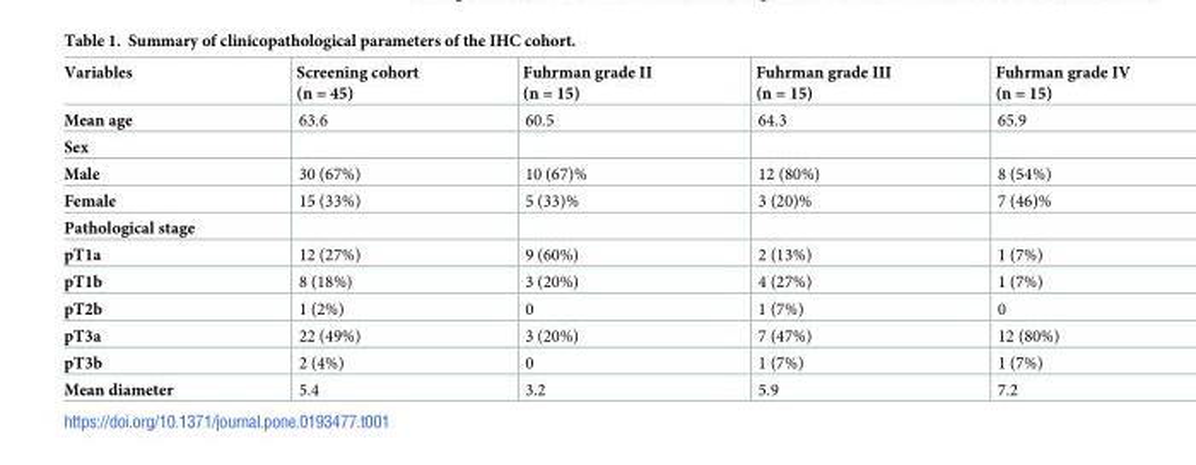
<table><thead><tr><td>Variables</td><td>Screening cohort (n = 45)</td><td>Fuhrman grade II (n = 15)</td><td>Fuhrman grade III (n = 15)</td><td>Fuhrman grade IV (n = 15)</td></tr></thead><tbody><tr><td>Mean age</td><td>63.6</td><td>60.5</td><td>64.3</td><td>65.9</td></tr><tr><td colspan="5">Sex</td></tr><tr><td>Male</td><td>30 (67%)</td><td>10 (67)%</td><td>12 (80%)</td><td>8 (54%)</td></tr><tr><td>Female</td><td>15 (33%)</td><td>5 (33)%</td><td>3 (20)%</td><td>7 (46)%</td></tr><tr><td colspan="5">Pathological stage</td></tr><tr><td>pT1a</td><td>12 (27%)</td><td>9 (60%)</td><td>2 (13%)</td><td>1 (7%)</td></tr><tr><td>pT1b</td><td>8 (18%)</td><td>3 (20%)</td><td>4 (27%)</td><td>1 (7%)</td></tr><tr><td>pT2b</td><td>1 (2%)</td><td>0</td><td>1 (7%)</td><td>0</td></tr><tr><td>pT3a</td><td>22 (49%)</td><td>3 (20%)</td><td>7 (47%)</td><td>12 (80%)</td></tr><tr><td>pT3b</td><td>2 (4%)</td><td>0</td><td>1 (7%)</td><td>1 (7%)</td></tr><tr><td>Mean diameter</td><td>5.4</td><td>3.2</td><td>5.9</td><td>7.2</td></tr></tbody></table>